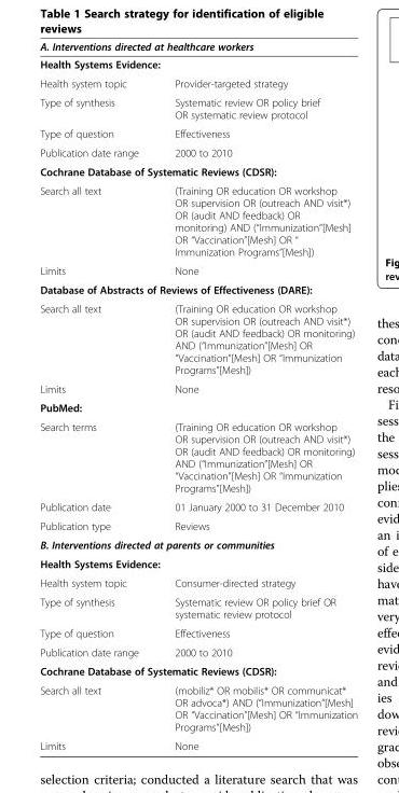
<table><thead><tr><td rowspan="2" colspan="2">A. Interventions directed at healthcare workers Health Systems Evidence:</td></tr><tr></tr><tr><td>Health system topic</td><td>Provider-targeted strategy</td></tr></thead><tbody><tr><td>Type of synthesis</td><td>Systematic review OR policy brief OR systematic review protocol</td></tr><tr><td>Type of question</td><td>Effectiveness</td></tr><tr><td>Publication date range</td><td>2000 to 2010</td></tr><tr><td colspan="2">Cochrane Database of Systematic Reviews (CDSR):</td></tr><tr><td>Search all text</td><td>(Training OR education OR workshop OR supervision OR (outreach AND visit*) OR (audit AND feedback) OR monitoring) AND (“Immunization”[Mesh] OR “Vaccination”[Mesh] OR “ Immunization Programs”[Mesh])</td></tr><tr><td>Limits</td><td>None</td></tr><tr><td colspan="2">Database of Abstracts of Reviews of Effectiveness (DARE):</td></tr><tr><td>Search all text</td><td>(Training OR education OR workshop OR supervision OR (outreach AND visit*) OR (audit AND feedback) OR monitoring) AND (“Immunization”[Mesh] OR “Vaccination”[Mesh] OR “Immunization Programs”[Mesh])</td></tr><tr><td>Limits</td><td>None</td></tr><tr><td colspan="2">PubMed:</td></tr><tr><td>Search terms</td><td>(Training OR education OR workshop OR supervision OR (outreach AND visit*) OR (audit AND feedback) OR monitoring) AND (“Immunization”[Mesh] OR “Vaccination”[Mesh] OR “Immunization Programs”[Mesh])</td></tr><tr><td>Publication date</td><td>01 January 2000 to 31 December 2010</td></tr><tr><td>Publication type</td><td>Reviews</td></tr><tr><td colspan="2">B. Interventions directed at parents or communities</td></tr><tr><td colspan="2">Health Systems Evidence:</td></tr><tr><td>Health system topic</td><td>Consumer-directed strategy</td></tr><tr><td>Type of synthesis</td><td>Systematic review OR policy brief OR systematic review protocol</td></tr><tr><td>Type of question</td><td>Effectiveness</td></tr><tr><td>Publication date range</td><td>2000 to 2010</td></tr><tr><td colspan="2">Cochrane Database of Systematic Reviews (CDSR):</td></tr><tr><td>Search all text</td><td>(mobiliz* OR mobilis* OR communicat* OR advoca*) AND (“Immunization”[Mesh] OR “Vaccination”[Mesh] OR “Immunization Programs”[Mesh])</td></tr><tr><td>Limits</td><td>None</td></tr></tbody></table>